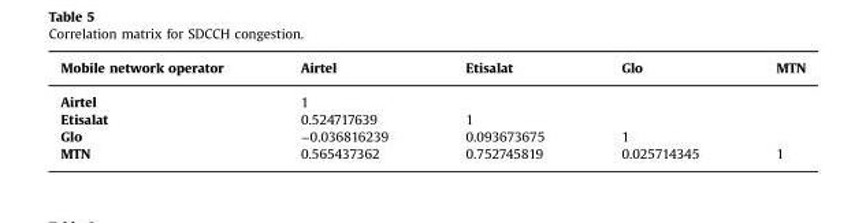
<table><thead><tr><td>Mobile network operator</td><td>Airtel</td><td>Etisalat</td><td>Glo</td><td>MTN</td></tr></thead><tbody><tr><td>Airtel</td><td>1</td><td></td><td></td><td></td></tr><tr><td>Etisalat</td><td>0.524717639</td><td>1</td><td></td><td></td></tr><tr><td>Glo</td><td>−0.036816239</td><td>0.093673675</td><td>1</td><td></td></tr><tr><td>MTN</td><td>0.565437362</td><td>0.752745819</td><td>0.025714345</td><td>1</td></tr></tbody></table>